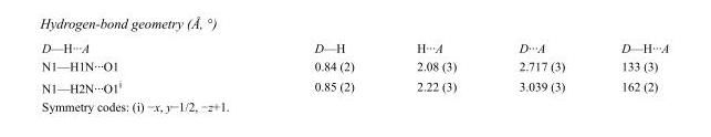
<table><tbody><tr><td>D—H···A</td><td>D—H</td><td>H···A</td><td>D···A</td><td>D—H···A</td></tr><tr><td>N1—H1N···O1</td><td>0.84 (2)</td><td>2.08 (3)</td><td>2.717 (3)</td><td>133 (3)</td></tr><tr><td>N1—H2N···O1<sup>i</sup></td><td>0.85 (2)</td><td>2.22 (3)</td><td>3.039 (3)</td><td>162 (2)</td></tr></tbody></table>